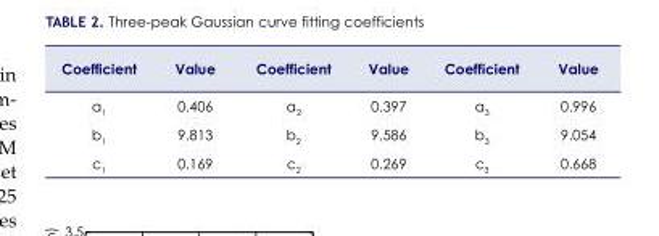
<table><thead><tr><td>Coefficient</td><td>Value</td><td>Coefficient</td><td>Value</td><td>Coefficient</td><td>Value</td></tr></thead><tbody><tr><td>a<sub>1</sub></td><td>0.406</td><td>a<sub>2</sub></td><td>0.397</td><td>a<sub>3</sub></td><td>0.996</td></tr><tr><td>b<sub>1</sub></td><td>9.813</td><td>b<sub>2</sub></td><td>9.586</td><td>b<sub>3</sub></td><td>9.054</td></tr><tr><td>c<sub>1</sub></td><td>0.169</td><td>c<sub>2</sub></td><td>0.269</td><td>c<sub>3</sub></td><td>0.668</td></tr></tbody></table>